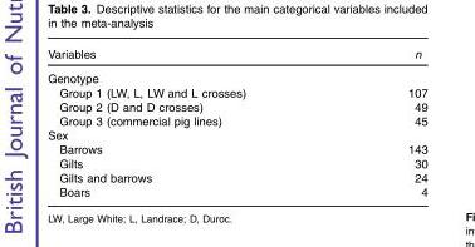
<table><thead><tr><td>Variables</td><td>n</td></tr></thead><tbody><tr><td colspan="2">Genotype</td></tr><tr><td>Group 1 (LW, L, LW and L crosses)</td><td>107</td></tr><tr><td>Group 2 (D and D crosses)</td><td>49</td></tr><tr><td>Group 3 (commercial pig lines)</td><td>45</td></tr><tr><td colspan="2">Sex</td></tr><tr><td>Barrows</td><td>143</td></tr><tr><td>Gilts</td><td>30</td></tr><tr><td>Gilts and barrows</td><td>24</td></tr><tr><td>Boars</td><td>4</td></tr></tbody></table>